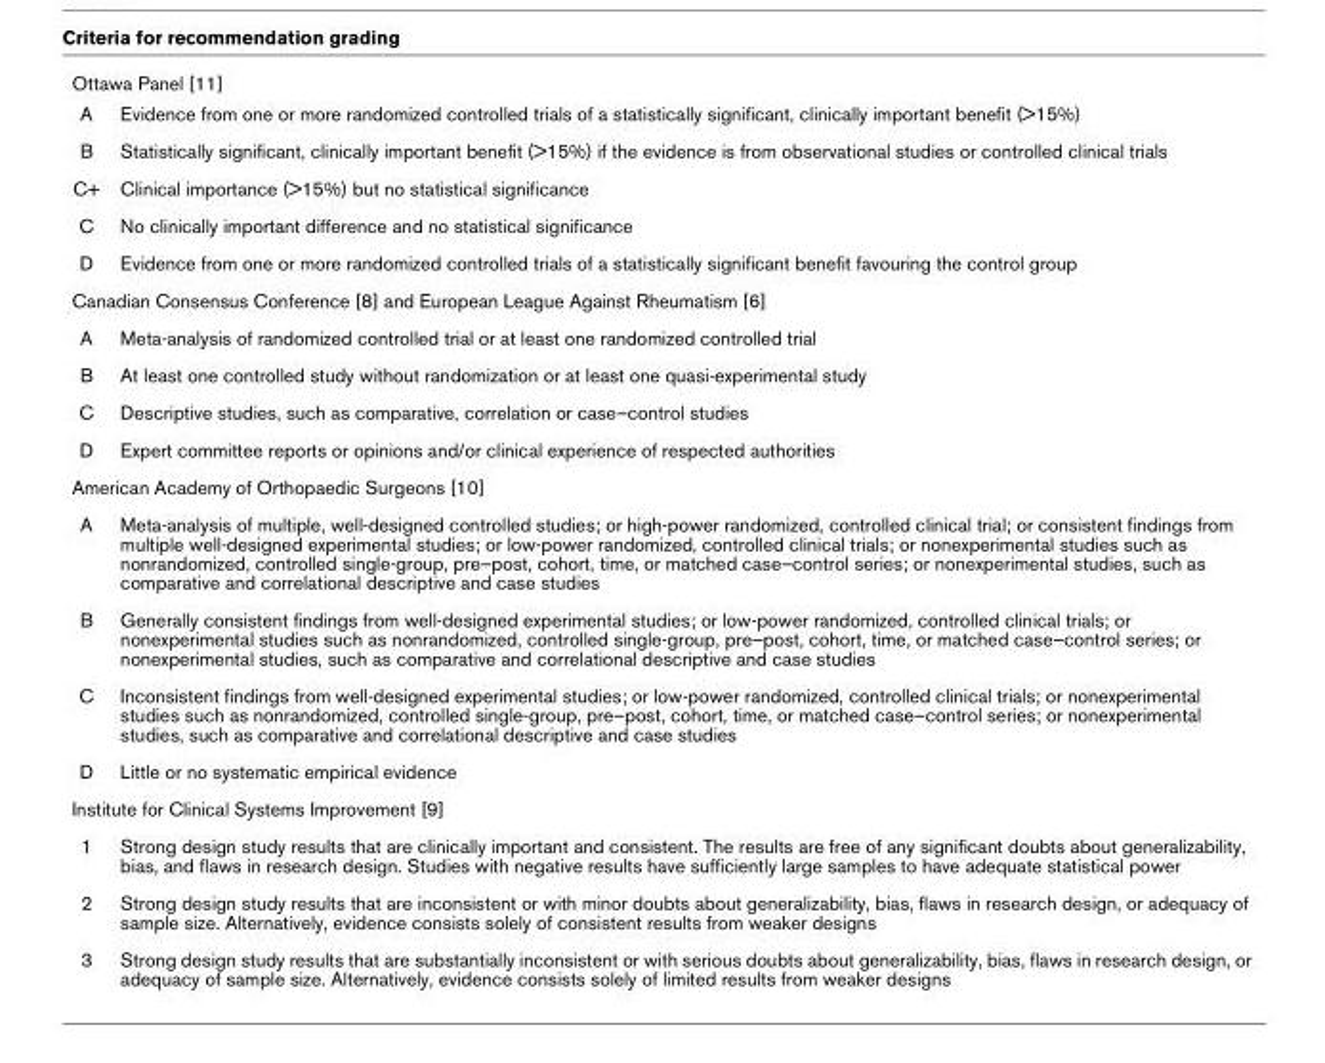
<table><tbody><tr><td colspan="2">Ottawa Panel [11]</td></tr><tr><td>A</td><td>Evidence from one or more randomized controlled trials of a statistically significant, clinically important benefit (&gt;15%)</td></tr><tr><td>B</td><td>Statistically significant, clinically important benefit (&gt;15%) if the evidence is from observational studies or controlled clinical trials</td></tr><tr><td>C+</td><td>Clinical importance (&gt;15%) but no statistical significance</td></tr><tr><td>C</td><td>No clinically important difference and no statistical significance</td></tr><tr><td>D</td><td>Evidence from one or more randomized controlled trials of a statistically significant benefit favouring the control group</td></tr><tr><td colspan="2">Canadian Consensus Conference [8] and European League Against Rheumatism [6]</td></tr><tr><td>A</td><td>Meta-analysis of randomized controlled trial or at least one randomized controlled trial</td></tr><tr><td>B</td><td>At least one controlled study without randomization or at least one quasi-experimental study</td></tr><tr><td>C</td><td>Descriptive studies, such as comparative, correlation or case–control studies</td></tr><tr><td>D</td><td>Expert committee reports or opinions and/or clinical experience of respected authorities</td></tr><tr><td colspan="2">American Academy of Orthopaedic Surgeons [10]</td></tr><tr><td>A</td><td>Meta-analysis of multiple, well-designed controlled studies; or high-power randomized, controlled clinical trial; or consistent findings from multiple well-designed experimental studies; or low-power randomized, controlled clinical trials; or nonexperimental studies such as nonrandomized, controlled single-group, pre–post, cohort, time, or matched case–control series; or nonexperimental studies, such as comparative and correlational descriptive and case studies</td></tr><tr><td>B</td><td>Generally consistent findings from well-designed experimental studies; or low-power randomized, controlled clinical trials; or nonexperimental studies such as nonrandomized, controlled single-group, pre–post, cohort, time, or matched case–control series; or nonexperimental studies, such as comparative and correlational descriptive and case studies</td></tr><tr><td>C</td><td>Inconsistent findings from well-designed experimental studies; or low-power randomized, controlled clinical trials; or nonexperimental studies such as nonrandomized, controlled single-group, pre–post, cohort, time, or matched case–control series; or nonexperimental studies, such as comparative and correlational descriptive and case studies</td></tr><tr><td>D</td><td>Little or no systematic empirical evidence</td></tr><tr><td colspan="2">Institute for Clinical Systems Improvement [9]</td></tr><tr><td>1</td><td>Strong design study results that are clinically important and consistent. The results are free of any significant doubts about generalizability, bias, and flaws in research design. Studies with negative results have sufficiently large samples to have adequate statistical power</td></tr><tr><td>2</td><td>Strong design study results that are inconsistent or with minor doubts about generalizability, bias, flaws in research design, or adequacy of sample size. Alternatively, evidence consists solely of consistent results from weaker designs</td></tr><tr><td>3</td><td>Strong design study results that are substantially inconsistent or with serious doubts about generalizability, bias, flaws in research design, or adequacy of sample size. Alternatively, evidence consists solely of limited results from weaker designs</td></tr></tbody></table>